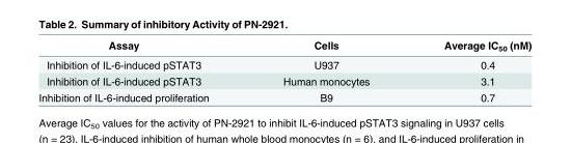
<table><thead><tr><td>Assay</td><td>Cells</td><td>Average IC<sub>50</sub> (nM)</td></tr></thead><tbody><tr><td>Inhibition of IL-6-induced pSTAT3</td><td>U937</td><td>0.4</td></tr><tr><td>Inhibition of IL-6-induced pSTAT3</td><td>Human monocytes</td><td>3.1</td></tr><tr><td>Inhibition of IL-6-induced proliferation</td><td>B9</td><td>0.7</td></tr></tbody></table>